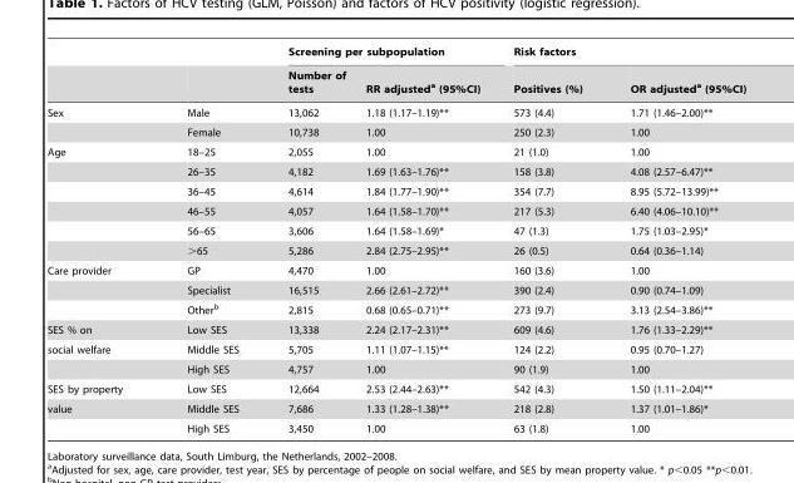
<table><thead><tr><td rowspan="2"></td><td rowspan="2"></td><td colspan="2">Screening per subpopulation</td><td colspan="2">Risk factors</td></tr><tr><td>Number of tests</td><td>RR adjusted<sup>a</sup> (95%CI)</td><td>Positives (%)</td><td>OR adjusted<sup>a</sup> (95%CI)</td></tr></thead><tbody><tr><td rowspan="2">Sex</td><td>Male</td><td>13,062</td><td>1.18 (1.17–1.19)**</td><td>573 (4.4)</td><td>1.71 (1.46–2.00)**</td></tr><tr><td>Female</td><td>10,738</td><td>1.00</td><td>250 (2.3)</td><td>1.00</td></tr><tr><td rowspan="6">Age</td><td>18–25</td><td>2,055</td><td>1.00</td><td>21 (1.0)</td><td>1.00</td></tr><tr><td>26–35</td><td>4,182</td><td>1.69 (1.63–1.76)**</td><td>158 (3.8)</td><td>4.08 (2.57–6.47)**</td></tr><tr><td>36–45</td><td>4,614</td><td>1.84 (1.77–1.90)**</td><td>354 (7.7)</td><td>8.95 (5.72–13.99)**</td></tr><tr><td>46–55</td><td>4,057</td><td>1.64 (1.58–1.70)**</td><td>217 (5.3)</td><td>6.40 (4.06–10.10)**</td></tr><tr><td>56–65</td><td>3,606</td><td>1.64 (1.58–1.69)*</td><td>47 (1.3)</td><td>1.75 (1.03–2.95)*</td></tr><tr><td>&gt;65</td><td>5,286</td><td>2.84 (2.75–2.95)**</td><td>26 (0.5)</td><td>0.64 (0.36–1.14)</td></tr><tr><td rowspan="3">Care provider</td><td>GP</td><td>4,470</td><td>1.00</td><td>160 (3.6)</td><td>1.00</td></tr><tr><td>Specialist</td><td>16,515</td><td>2.66 (2.61–2.72)**</td><td>390 (2.4)</td><td>0.90 (0.74–1.09)</td></tr><tr><td>Other<sup>b</sup></td><td>2,815</td><td>0.68 (0.65–0.71)**</td><td>273 (9.7)</td><td>3.13 (2.54–3.86)**</td></tr><tr><td>SES % on</td><td>Low SES</td><td>13,338</td><td>2.24 (2.17–2.31)**</td><td>609 (4.6)</td><td>1.76 (1.33–2.29)**</td></tr><tr><td rowspan="2">social welfare</td><td>Middle SES</td><td>5,705</td><td>1.11 (1.07–1.15)**</td><td>124 (2.2)</td><td>0.95 (0.70–1.27)</td></tr><tr><td>High SES</td><td>4,757</td><td>1.00</td><td>90 (1.9)</td><td>1.00</td></tr><tr><td>SES by property</td><td>Low SES</td><td>12,664</td><td>2.53 (2.44–2.63)**</td><td>542 (4.3)</td><td>1.50 (1.11–2.04)**</td></tr><tr><td rowspan="2">value</td><td>Middle SES</td><td>7,686</td><td>1.33 (1.28–1.38)**</td><td>218 (2.8)</td><td>1.37 (1.01–1.86)*</td></tr><tr><td>High SES</td><td>3,450</td><td>1.00</td><td>63 (1.8)</td><td>1.00</td></tr></tbody></table>